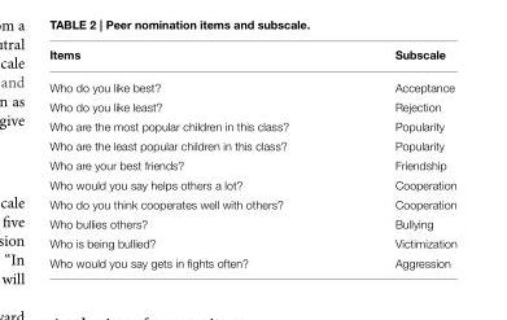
<table><thead><tr><td>Items</td><td>Subscale</td></tr></thead><tbody><tr><td>Who do you like best?</td><td>Acceptance</td></tr><tr><td>Who do you like least?</td><td>Rejection</td></tr><tr><td>Who are the most popular children in this class?</td><td>Popularity</td></tr><tr><td>Who are the least popular children in this class?</td><td>Popularity</td></tr><tr><td>Who are your best friends?</td><td>Friendship</td></tr><tr><td>Who would you say helps others a lot?</td><td>Cooperation</td></tr><tr><td>Who do you think cooperates well with others?</td><td>Cooperation</td></tr><tr><td>Who bullies others?</td><td>Bullying</td></tr><tr><td>Who is being bullied?</td><td>Victimization</td></tr><tr><td>Who would you say gets in fights often?</td><td>Aggression</td></tr></tbody></table>